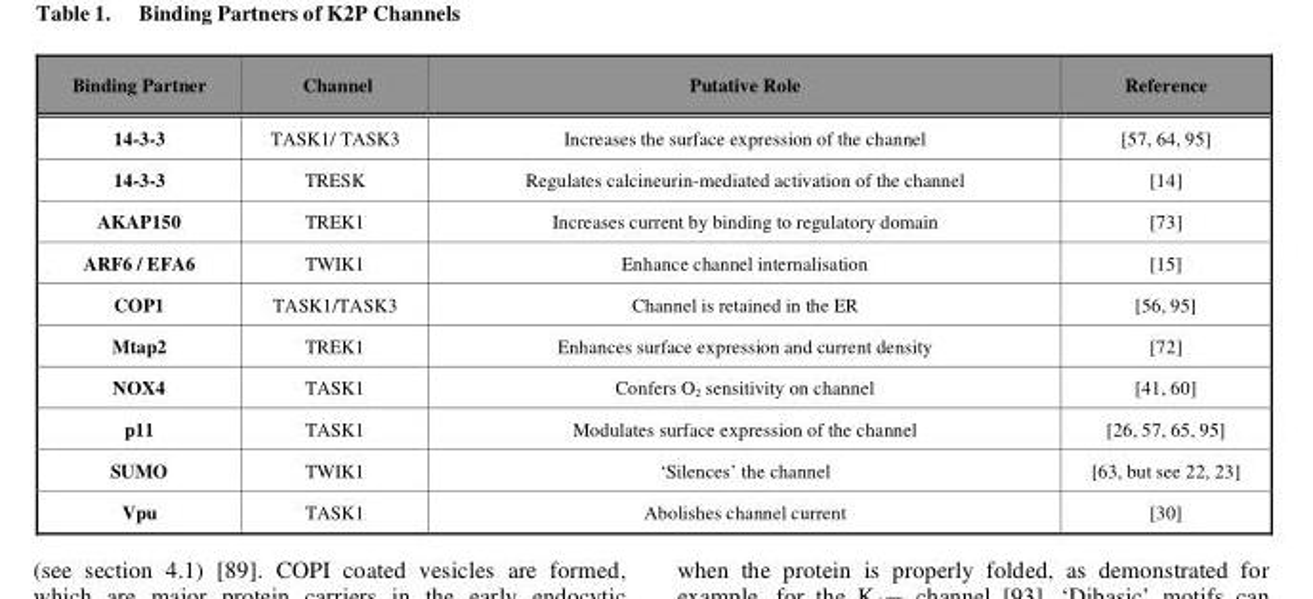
<table><thead><tr><td>Binding Partner</td><td>Channel</td><td>Putative Role</td><td>Reference</td></tr></thead><tbody><tr><td>14-3-3</td><td>TASK1/ TASK3</td><td>Increases the surface expression of the channel</td><td>[57, 64, 95]</td></tr><tr><td>14-3-3</td><td>TRESK</td><td>Regulates calcineurin-mediated activation of the channel</td><td>[14]</td></tr><tr><td>AKAP150</td><td>TREK1</td><td>Increases current by binding to regulatory domain</td><td>[73]</td></tr><tr><td>ARF6 / EFA6</td><td>TWIK1</td><td>Enhance channel internalisation</td><td>[15]</td></tr><tr><td>COP1</td><td>TASK1/TASK3</td><td>Channel is retained in the ER</td><td>[56, 95]</td></tr><tr><td>Mtap2</td><td>TREK1</td><td>Enhances surface expression and current density</td><td>[72]</td></tr><tr><td>NOX4</td><td>TASK1</td><td>Confers O<sub>2</sub> sensitivity on channel</td><td>[41, 60]</td></tr><tr><td>p11</td><td>TASK1</td><td>Modulates surface expression of the channel</td><td>[26, 57, 65, 95]</td></tr><tr><td>SUMO</td><td>TWIK1</td><td>‘Silences’ the channel</td><td>[63, but see 22, 23]</td></tr><tr><td>Vpu</td><td>TASK1</td><td>Abolishes channel current</td><td>[30]</td></tr></tbody></table>